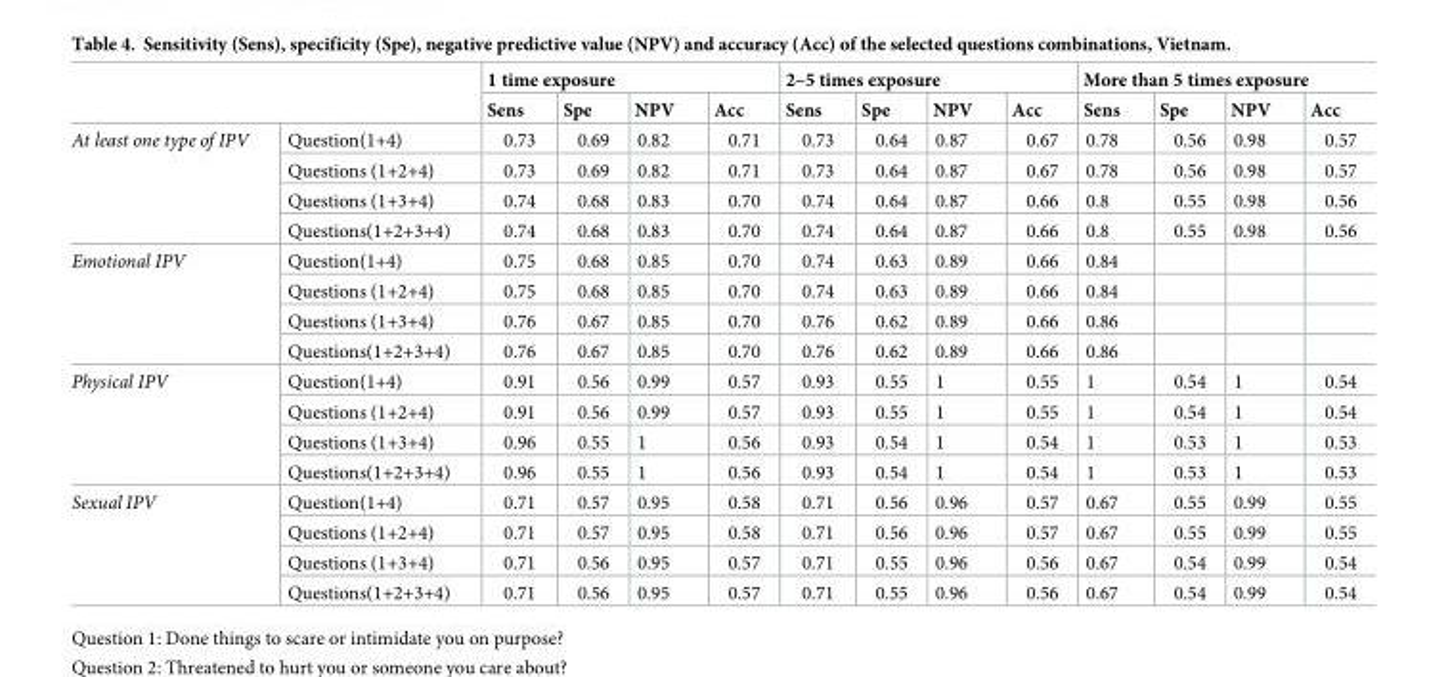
<table><thead><tr><td rowspan="2"></td><td rowspan="2"></td><td colspan="4">1 time exposure</td><td colspan="4">2–5 times exposure</td><td colspan="4">More than 5 times exposure</td></tr><tr><td>Sens</td><td>Spe</td><td>NPV</td><td>Acc</td><td>Sens</td><td>Spe</td><td>NPV</td><td>Acc</td><td>Sens</td><td>Spe</td><td>NPV</td><td>Acc</td></tr></thead><tbody><tr><td rowspan="4">At least one type of IPV</td><td>Question(1+4)</td><td>0.73</td><td>0.69</td><td>0.82</td><td>0.71</td><td>0.73</td><td>0.64</td><td>0.87</td><td>0.67</td><td>0.78</td><td>0.56</td><td>0.98</td><td>0.57</td></tr><tr><td>Questions (1+2+4)</td><td>0.73</td><td>0.69</td><td>0.82</td><td>0.71</td><td>0.73</td><td>0.64</td><td>0.87</td><td>0.67</td><td>0.78</td><td>0.56</td><td>0.98</td><td>0.57</td></tr><tr><td>Questions (1+3+4)</td><td>0.74</td><td>0.68</td><td>0.83</td><td>0.70</td><td>0.74</td><td>0.64</td><td>0.87</td><td>0.66</td><td>0.8</td><td>0.55</td><td>0.98</td><td>0.56</td></tr><tr><td>Questions(1+2+3+4)</td><td>0.74</td><td>0.68</td><td>0.83</td><td>0.70</td><td>0.74</td><td>0.64</td><td>0.87</td><td>0.66</td><td>0.8</td><td>0.55</td><td>0.98</td><td>0.56</td></tr><tr><td rowspan="4">Emotional IPV</td><td>Question(1+4)</td><td>0.75</td><td>0.68</td><td>0.85</td><td>0.70</td><td>0.74</td><td>0.63</td><td>0.89</td><td>0.66</td><td>0.84</td><td></td><td></td><td></td></tr><tr><td>Questions (1+2+4)</td><td>0.75</td><td>0.68</td><td>0.85</td><td>0.70</td><td>0.74</td><td>0.63</td><td>0.89</td><td>0.66</td><td>0.84</td><td></td><td></td><td></td></tr><tr><td>Questions (1+3+4)</td><td>0.76</td><td>0.67</td><td>0.85</td><td>0.70</td><td>0.76</td><td>0.62</td><td>0.89</td><td>0.66</td><td>0.86</td><td></td><td></td><td></td></tr><tr><td>Questions(1+2+3+4)</td><td>0.76</td><td>0.67</td><td>0.85</td><td>0.70</td><td>0.76</td><td>0.62</td><td>0.89</td><td>0.66</td><td>0.86</td><td></td><td></td><td></td></tr><tr><td rowspan="4">Physical IPV</td><td>Question(1+4)</td><td>0.91</td><td>0.56</td><td>0.99</td><td>0.57</td><td>0.93</td><td>0.55</td><td>1</td><td>0.55</td><td>1</td><td>0.54</td><td>1</td><td>0.54</td></tr><tr><td>Questions (1+2+4)</td><td>0.91</td><td>0.56</td><td>0.99</td><td>0.57</td><td>0.93</td><td>0.55</td><td>1</td><td>0.55</td><td>1</td><td>0.54</td><td>1</td><td>0.54</td></tr><tr><td>Questions (1+3+4)</td><td>0.96</td><td>0.55</td><td>1</td><td>0.56</td><td>0.93</td><td>0.54</td><td>1</td><td>0.54</td><td>1</td><td>0.53</td><td>1</td><td>0.53</td></tr><tr><td>Questions(1+2+3+4)</td><td>0.96</td><td>0.55</td><td>1</td><td>0.56</td><td>0.93</td><td>0.54</td><td>1</td><td>0.54</td><td>1</td><td>0.53</td><td>1</td><td>0.53</td></tr><tr><td rowspan="4">Sexual IPV</td><td>Question(1+4)</td><td>0.71</td><td>0.57</td><td>0.95</td><td>0.58</td><td>0.71</td><td>0.56</td><td>0.96</td><td>0.57</td><td>0.67</td><td>0.55</td><td>0.99</td><td>0.55</td></tr><tr><td>Questions (1+2+4)</td><td>0.71</td><td>0.57</td><td>0.95</td><td>0.58</td><td>0.71</td><td>0.56</td><td>0.96</td><td>0.57</td><td>0.67</td><td>0.55</td><td>0.99</td><td>0.55</td></tr><tr><td>Questions (1+3+4)</td><td>0.71</td><td>0.56</td><td>0.95</td><td>0.57</td><td>0.71</td><td>0.55</td><td>0.96</td><td>0.56</td><td>0.67</td><td>0.54</td><td>0.99</td><td>0.54</td></tr><tr><td>Questions(1+2+3+4)</td><td>0.71</td><td>0.56</td><td>0.95</td><td>0.57</td><td>0.71</td><td>0.55</td><td>0.96</td><td>0.56</td><td>0.67</td><td>0.54</td><td>0.99</td><td>0.54</td></tr></tbody></table>